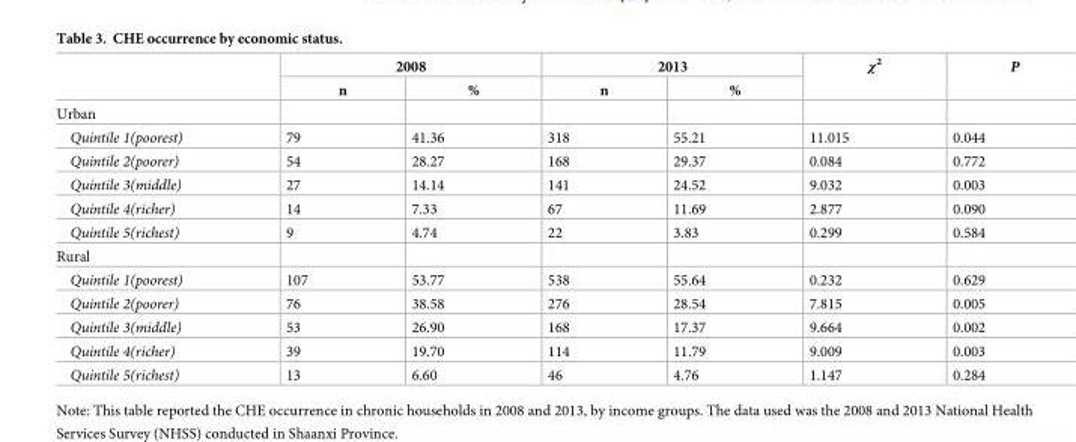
<table><thead><tr><td rowspan="2"></td><td colspan="2">2008</td><td colspan="2">2013</td><td rowspan="2">χ<sup>2</sup></td><td rowspan="2">P</td></tr><tr><td>n</td><td>%</td><td>n</td><td>%</td></tr></thead><tbody><tr><td colspan="7">Urban</td></tr><tr><td>Quintile 1(poorest)</td><td>79</td><td>41.36</td><td>318</td><td>55.21</td><td>11.015</td><td>0.044</td></tr><tr><td>Quintile 2(poorer)</td><td>54</td><td>28.27</td><td>168</td><td>29.37</td><td>0.084</td><td>0.772</td></tr><tr><td>Quintile 3(middle)</td><td>27</td><td>14.14</td><td>141</td><td>24.52</td><td>9.032</td><td>0.003</td></tr><tr><td>Quintile 4(richer)</td><td>14</td><td>7.33</td><td>67</td><td>11.69</td><td>2.877</td><td>0.090</td></tr><tr><td>Quintile 5(richest)</td><td>9</td><td>4.74</td><td>22</td><td>3.83</td><td>0.299</td><td>0.584</td></tr><tr><td colspan="7">Rural</td></tr><tr><td>Quintile 1(poorest)</td><td>107</td><td>53.77</td><td>538</td><td>55.64</td><td>0.232</td><td>0.629</td></tr><tr><td>Quintile 2(poorer)</td><td>76</td><td>38.58</td><td>276</td><td>28.54</td><td>7.815</td><td>0.005</td></tr><tr><td>Quintile 3(middle)</td><td>53</td><td>26.90</td><td>168</td><td>17.37</td><td>9.664</td><td>0.002</td></tr><tr><td>Quintile 4(richer)</td><td>39</td><td>19.70</td><td>114</td><td>11.79</td><td>9.009</td><td>0.003</td></tr><tr><td>Quintile 5(richest)</td><td>13</td><td>6.60</td><td>46</td><td>4.76</td><td>1.147</td><td>0.284</td></tr></tbody></table>